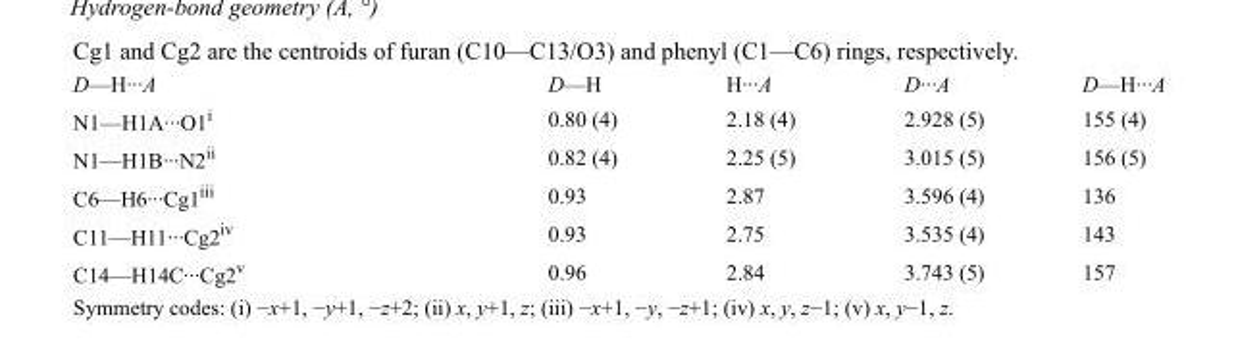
<table><tbody><tr><td>D—H···A</td><td>D—H</td><td>H···A</td><td>D···A</td><td>D—H···A</td></tr><tr><td>N1—H1A···O1<sup>i</sup></td><td>0.80 (4)</td><td>2.18 (4)</td><td>2.928 (5)</td><td>155 (4)</td></tr><tr><td>N1—H1B···N2<sup>ii</sup></td><td>0.82 (4)</td><td>2.25 (5)</td><td>3.015 (5)</td><td>156 (5)</td></tr><tr><td>C6—H6···Cg1<sup>iii</sup></td><td>0.93</td><td>2.87</td><td>3.596 (4)</td><td>136</td></tr><tr><td>C11—H11···Cg2<sup>iv</sup></td><td>0.93</td><td>2.75</td><td>3.535 (4)</td><td>143</td></tr><tr><td>C14—H14C···Cg2<sup>v</sup></td><td>0.96</td><td>2.84</td><td>3.743 (5)</td><td>157</td></tr></tbody></table>